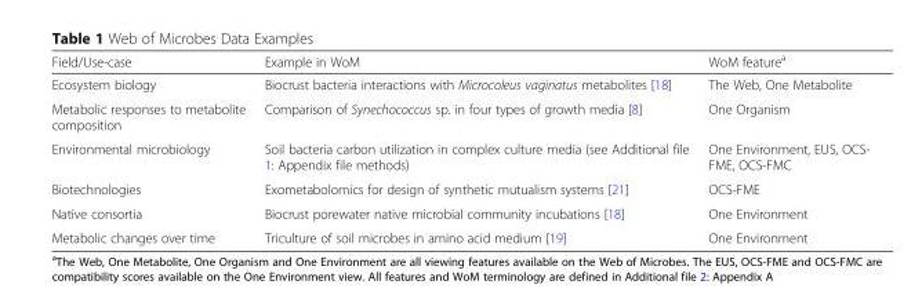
<table><thead><tr><td>Field/Use-case</td><td>Example in WoM</td><td>WoM feature<sup>a</sup></td></tr></thead><tbody><tr><td>Ecosystem biology</td><td>Biocrust bacteria interactions with Microcoleus vaginatus metabolites [18]</td><td>The Web, One Metabolite</td></tr><tr><td>Metabolic responses to metabolite composition</td><td>Comparison of Synechococcus sp. in four types of growth media [8]</td><td>One Organism</td></tr><tr><td>Environmental microbiology</td><td>Soil bacteria carbon utilization in complex culture media (see Additional file 1: Appendix file methods)</td><td>One Environment, EUS, OCS- FME, OCS-FMC</td></tr><tr><td>Biotechnologies</td><td>Exometabolomics for design of synthetic mutualism systems [21]</td><td>OCS-FME</td></tr><tr><td>Native consortia</td><td>Biocrust porewater native microbial community incubations [18]</td><td>One Environment</td></tr><tr><td>Metabolic changes over time</td><td>Triculture of soil microbes in amino acid medium [19]</td><td>One Environment</td></tr></tbody></table>